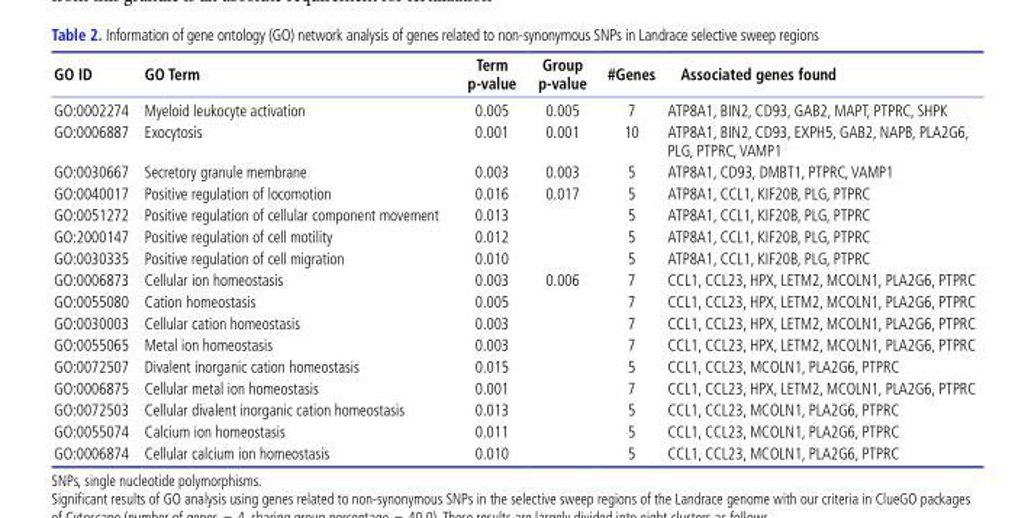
<table><thead><tr><td>GO ID</td><td>GO Term</td><td>Term p-value</td><td>Group p-value</td><td>#Genes</td><td>Associated genes found</td></tr></thead><tbody><tr><td>GO:0002274</td><td>Myeloid leukocyte activation</td><td>0.005</td><td>0.005</td><td>7</td><td>ATP8A1, BIN2, CD93, GAB2, MAPT, PTPRC, SHPK</td></tr><tr><td>GO:0006887</td><td>Exocytosis</td><td>0.001</td><td>0.001</td><td>10</td><td>ATP8A1, BIN2, CD93, EXPH5, GAB2, NAPB, PLA2G6, PLG, PTPRC, VAMP1</td></tr><tr><td>GO:0030667</td><td>Secretory granule membrane</td><td>0.003</td><td>0.003</td><td>5</td><td>ATP8A1, CD93, DMBT1, PTPRC, VAMP1</td></tr><tr><td>GO:0040017</td><td>Positive regulation of locomotion</td><td>0.016</td><td>0.017</td><td>5</td><td>ATP8A1, CCL1, KIF20B, PLG, PTPRC</td></tr><tr><td>GO:0051272</td><td>Positive regulation of cellular component movement</td><td>0.013</td><td></td><td>5</td><td>ATP8A1, CCL1, KIF20B, PLG, PTPRC</td></tr><tr><td>GO:2000147</td><td>Positive regulation of cell motility</td><td>0.012</td><td></td><td>5</td><td>ATP8A1, CCL1, KIF20B, PLG, PTPRC</td></tr><tr><td>GO:0030335</td><td>Positive regulation of cell migration</td><td>0.010</td><td></td><td>5</td><td>ATP8A1, CCL1, KIF20B, PLG, PTPRC</td></tr><tr><td>GO:0006873</td><td>Cellular ion homeostasis</td><td>0.003</td><td>0.006</td><td>7</td><td>CCL1, CCL23, HPX, LETM2, MCOLN1, PLA2G6, PTPRC</td></tr><tr><td>GO:0055080</td><td>Cation homeostasis</td><td>0.005</td><td></td><td>7</td><td>CCL1, CCL23, HPX, LETM2, MCOLN1, PLA2G6, PTPRC</td></tr><tr><td>GO:0030003</td><td>Cellular cation homeostasis</td><td>0.003</td><td></td><td>7</td><td>CCL1, CCL23, HPX, LETM2, MCOLN1, PLA2G6, PTPRC</td></tr><tr><td>GO:0055065</td><td>Metal ion homeostasis</td><td>0.003</td><td></td><td>7</td><td>CCL1, CCL23, HPX, LETM2, MCOLN1, PLA2G6, PTPRC</td></tr><tr><td>GO:0072507</td><td>Divalent inorganic cation homeostasis</td><td>0.015</td><td></td><td>5</td><td>CCL1, CCL23, MCOLN1, PLA2G6, PTPRC</td></tr><tr><td>GO:0006875</td><td>Cellular metal ion homeostasis</td><td>0.001</td><td></td><td>7</td><td>CCL1, CCL23, HPX, LETM2, MCOLN1, PLA2G6, PTPRC</td></tr><tr><td>GO:0072503</td><td>Cellular divalent inorganic cation homeostasis</td><td>0.013</td><td></td><td>5</td><td>CCL1, CCL23, MCOLN1, PLA2G6, PTPRC</td></tr><tr><td>GO:0055074</td><td>Calcium ion homeostasis</td><td>0.011</td><td></td><td>5</td><td>CCL1, CCL23, MCOLN1, PLA2G6, PTPRC</td></tr><tr><td>GO:0006874</td><td>Cellular calcium ion homeostasis</td><td>0.010</td><td></td><td>5</td><td>CCL1, CCL23, MCOLN1, PLA2G6, PTPRC</td></tr></tbody></table>